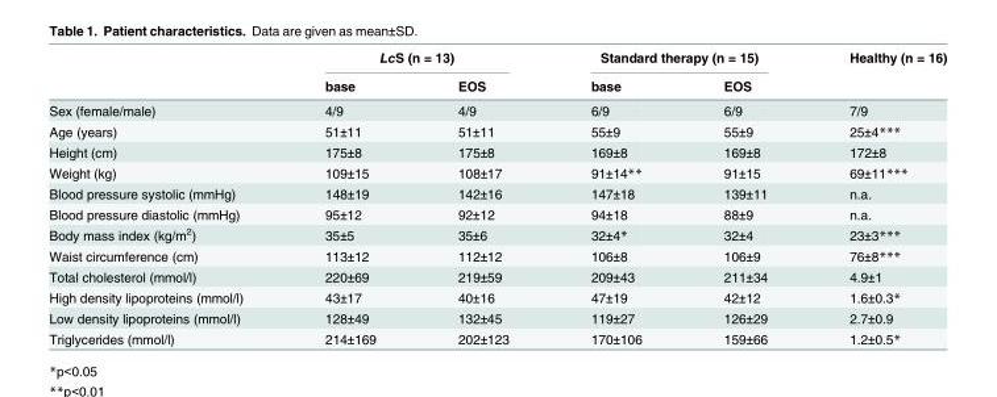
<table><thead><tr><td rowspan="2"></td><td colspan="2">LcS (n = 13)</td><td colspan="2">Standard therapy (n = 15)</td><td rowspan="2">Healthy (n = 16)</td></tr><tr><td>base</td><td>EOS</td><td>base</td><td>EOS</td></tr></thead><tbody><tr><td>Sex (female/male)</td><td>4/9</td><td>4/9</td><td>6/9</td><td>6/9</td><td>7/9</td></tr><tr><td>Age (years)</td><td>51±11</td><td>51±11</td><td>55±9</td><td>55±9</td><td>25±4***</td></tr><tr><td>Height (cm)</td><td>175±8</td><td>175±8</td><td>169±8</td><td>169±8</td><td>172±8</td></tr><tr><td>Weight (kg)</td><td>109±15</td><td>108±17</td><td>91±14**</td><td>91±15</td><td>69±11***</td></tr><tr><td>Blood pressure systolic (mmHg)</td><td>148±19</td><td>142±16</td><td>147±18</td><td>139±11</td><td>n.a.</td></tr><tr><td>Blood pressure diastolic (mmHg)</td><td>95±12</td><td>92±12</td><td>94±18</td><td>88±9</td><td>n.a.</td></tr><tr><td>Body mass index (kg/m<sup>2</sup>)</td><td>35±5</td><td>35±6</td><td>32±4*</td><td>32±4</td><td>23±3***</td></tr><tr><td>Waist circumference (cm)</td><td>113±12</td><td>112±12</td><td>106±8</td><td>106±9</td><td>76±8***</td></tr><tr><td>Total cholesterol (mmol/l)</td><td>220±69</td><td>219±59</td><td>209±43</td><td>211±34</td><td>4.9±1</td></tr><tr><td>High density lipoproteins (mmol/l)</td><td>43±17</td><td>40±16</td><td>47±19</td><td>42±12</td><td>1.6±0.3*</td></tr><tr><td>Low density lipoproteins (mmol/l)</td><td>128±49</td><td>132±45</td><td>119±27</td><td>126±29</td><td>2.7±0.9</td></tr><tr><td>Triglycerides (mmol/l)</td><td>214±169</td><td>202±123</td><td>170±106</td><td>159±66</td><td>1.2±0.5*</td></tr></tbody></table>